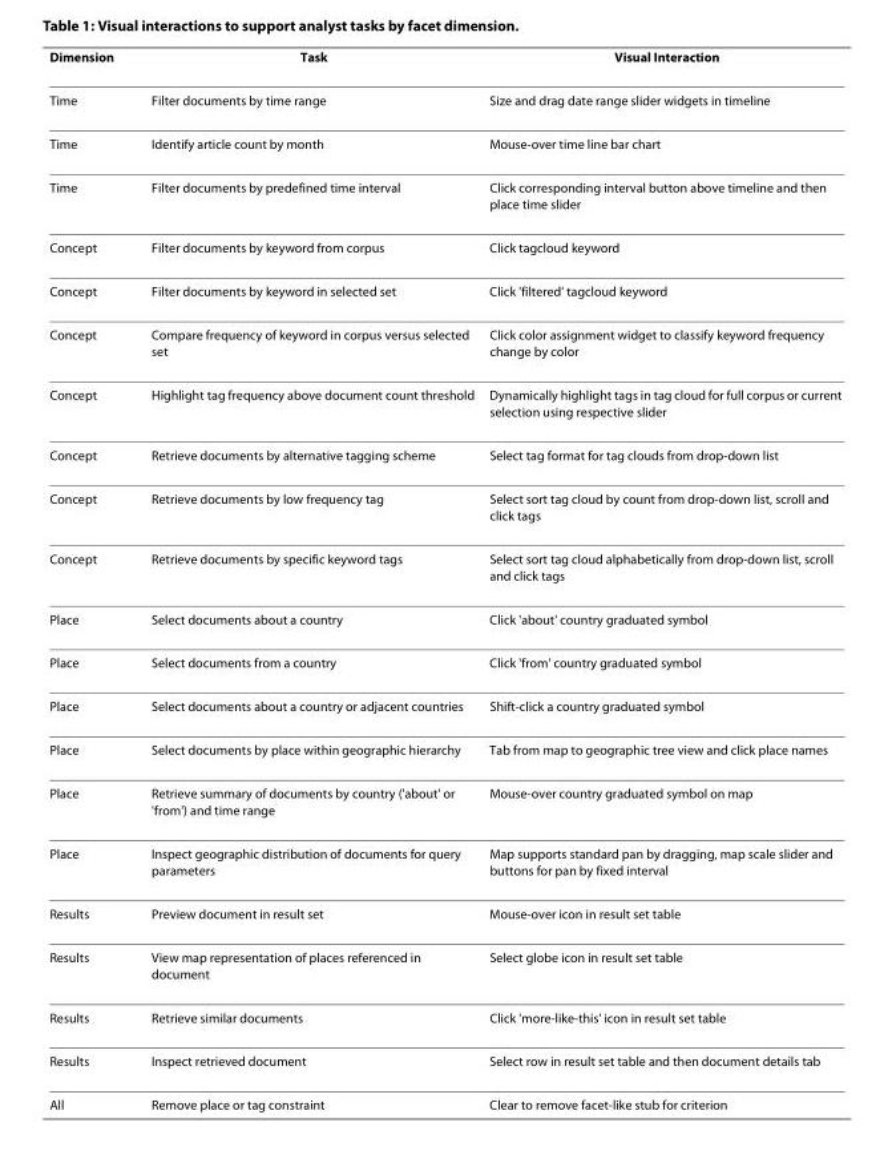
<table><thead><tr><td>Dimension</td><td>Task</td><td>Visual Interaction</td></tr></thead><tbody><tr><td>Time</td><td>Filter documents by time range</td><td>Size and drag date range slider widgets in timeline</td></tr><tr><td>Time</td><td>Identify article count by month</td><td>Mouse-over time line bar chart</td></tr><tr><td>Time</td><td>Filter documents by predefined time interval</td><td>Click corresponding interval button above timeline and then place time slider</td></tr><tr><td>Concept</td><td>Filter documents by keyword from corpus</td><td>Click tagcloud keyword</td></tr><tr><td>Concept</td><td>Filter documents by keyword in selected set</td><td>Click &#x27;filtered&#x27; tagcloud keyword</td></tr><tr><td>Concept</td><td>Compare frequency of keyword in corpus versus selected set</td><td>Click color assignment widget to classify keyword frequency change by color</td></tr><tr><td>Concept</td><td>Highlight tag frequency above document count threshold</td><td>Dynamically highlight tags in tag cloud for full corpus or current selection using respective slider</td></tr><tr><td>Concept</td><td>Retrieve documents by alternative tagging scheme</td><td>Select tag format for tag clouds from drop-down list</td></tr><tr><td>Concept</td><td>Retrieve documents by low frequency tag</td><td>Select sort tag cloud by count from drop-down list, scroll and click tags</td></tr><tr><td>Concept</td><td>Retrieve documents by specific keyword tags</td><td>Select sort tag cloud alphabetically from drop-down list, scroll and click tags</td></tr><tr><td>Place</td><td>Select documents about a country</td><td>Click &#x27;about&#x27; country graduated symbol</td></tr><tr><td>Place</td><td>Select documents from a country</td><td>Click &#x27;from&#x27; country graduated symbol</td></tr><tr><td>Place</td><td>Select documents about a country or adjacent countries</td><td>Shift-click a country graduated symbol</td></tr><tr><td>Place</td><td>Select documents by place within geographic hierarchy</td><td>Tab from map to geographic tree view and click place names</td></tr><tr><td>Place</td><td>Retrieve summary of documents by country (&#x27;about&#x27; or &#x27;from&#x27;) and time range</td><td>Mouse-over country graduated symbol on map</td></tr><tr><td>Place</td><td>Inspect geographic distribution of documents for query parameters</td><td>Map supports standard pan by dragging, map scale slider and buttons for pan by fixed interval</td></tr><tr><td>Results</td><td>Preview document in result set</td><td>Mouse-over icon in result set table</td></tr><tr><td>Results</td><td>View map representation of places referenced in document</td><td>Select globe icon in result set table</td></tr><tr><td>Results</td><td>Retrieve similar documents</td><td>Click &#x27;more-like-this&#x27; icon in result set table</td></tr><tr><td>Results</td><td>Inspect retrieved document</td><td>Select row in result set table and then document details tab</td></tr><tr><td>All</td><td>Remove place or tag constraint</td><td>Clear to remove facet-like stub for criterion</td></tr></tbody></table>